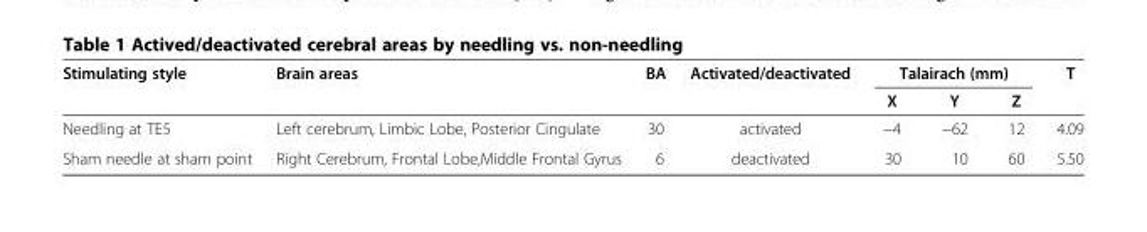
<table><thead><tr><td rowspan="2">Stimulating style</td><td rowspan="2">Brain areas</td><td rowspan="2">BA</td><td rowspan="2">Activated/deactivated</td><td colspan="3">Talairach (mm)</td><td rowspan="2">T</td></tr><tr><td>X</td><td>Y</td><td>Z</td></tr></thead><tbody><tr><td>Needling at TE5</td><td>Left cerebrum, Limbic Lobe, Posterior Cingulate</td><td>30</td><td>activated</td><td>−4</td><td>−62</td><td>12</td><td>4.09</td></tr><tr><td>Sham needle at sham point</td><td>Right Cerebrum, Frontal Lobe,Middle Frontal Gyrus</td><td>6</td><td>deactivated</td><td>30</td><td>10</td><td>60</td><td>5.50</td></tr></tbody></table>